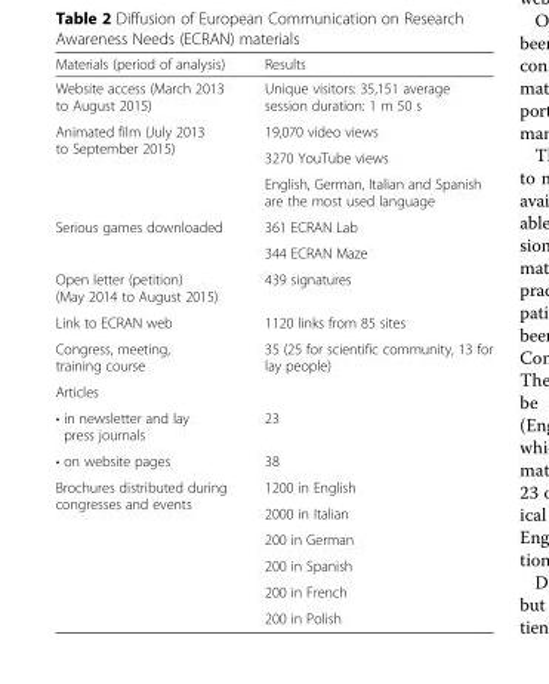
<table><thead><tr><td>Materials (period of analysis)</td><td>Results</td></tr></thead><tbody><tr><td>Website access (March 2013 to August 2015)</td><td>Unique visitors: 35,151 average session duration: 1 m 50 s</td></tr><tr><td rowspan="3">Animated film (July 2013 to September 2015)</td><td>19,070 video views</td></tr><tr><td>3270 YouTube views</td></tr><tr><td>English, German, Italian and Spanish are the most used language</td></tr><tr><td rowspan="2">Serious games downloaded</td><td>361 ECRAN Lab</td></tr><tr><td>344 ECRAN Maze</td></tr><tr><td>Open letter (petition) (May 2014 to August 2015)</td><td>439 signatures</td></tr><tr><td>Link to ECRAN web</td><td>1120 links from 85 sites</td></tr><tr><td>Congress, meeting, training course</td><td>35 (25 for scientific community, 13 for lay people)</td></tr><tr><td colspan="2">Articles</td></tr><tr><td>• in newsletter and lay press journals</td><td>23</td></tr><tr><td>• on website pages</td><td>38</td></tr><tr><td rowspan="6">Brochures distributed during congresses and events</td><td>1200 in English</td></tr><tr><td>2000 in Italian</td></tr><tr><td>200 in German</td></tr><tr><td>200 in Spanish</td></tr><tr><td>200 in French</td></tr><tr><td>200 in Polish</td></tr></tbody></table>